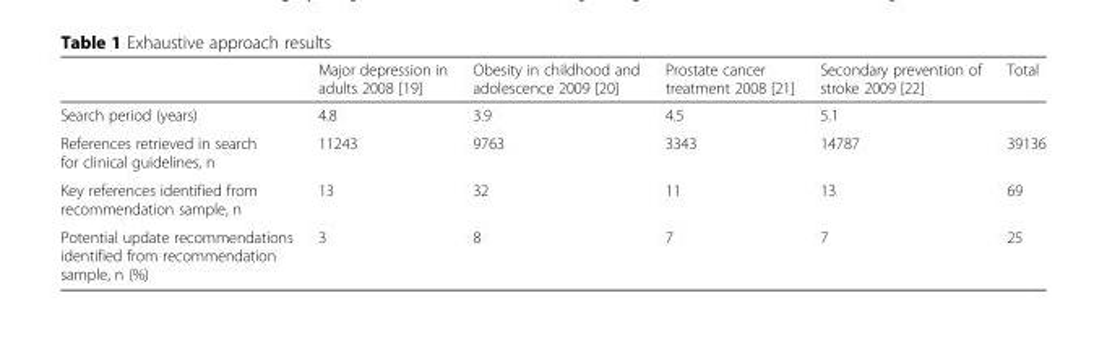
<table><thead><tr><td></td><td>Major depression in adults 2008 [19]</td><td>Obesity in childhood and adolescence 2009 [20]</td><td>Prostate cancer treatment 2008 [21]</td><td>Secondary prevention of stroke 2009 [22]</td><td>Total</td></tr></thead><tbody><tr><td>Search period (years)</td><td>4.8</td><td>3.9</td><td>4.5</td><td>5.1</td><td></td></tr><tr><td>References retrieved in search for clinical guidelines, n</td><td>11243</td><td>9763</td><td>3343</td><td>14787</td><td>39136</td></tr><tr><td>Key references identified from recommendation sample, n</td><td>13</td><td>32</td><td>11</td><td>13</td><td>69</td></tr><tr><td>Potential update recommendations identified from recommendation sample, n (%)</td><td>3</td><td>8</td><td>7</td><td>7</td><td>25</td></tr></tbody></table>